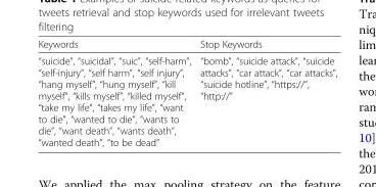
<table><thead><tr><td>Keywords</td><td>Stop Keywords</td></tr></thead><tbody><tr><td>“suicide”, “suicidal”, “suic”, “self-harm”, “self-injury”, “self harm”, “self injury”, “hang myself”, “hung myself”, “kill myself”, “kills myself”, “killed myself”, “take my life”, “takes my life”, “want to die”, “wanted to die”, “wants to die”, “want death”, “wants death”, “wanted death”, “to be dead”</td><td>“bomb”, “suicide attack”, “suicide attacks”, “car attack”, “car attacks”, “suicide hotline”, “https://”, “http://”</td></tr></tbody></table>